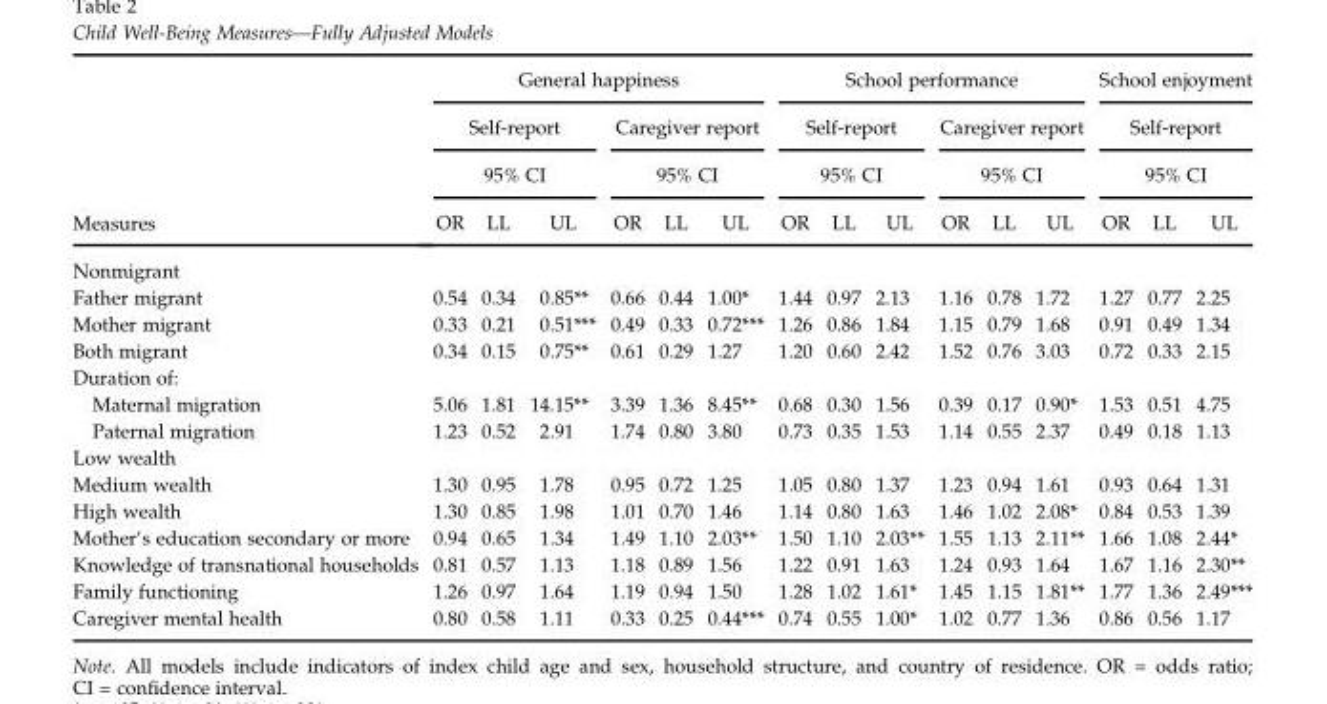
<table><thead><tr><td rowspan="4">Measures</td><td colspan="6">General happiness</td><td colspan="6">School performance</td><td rowspan="3" colspan="3">School enjoyment Self-report 95% CI</td></tr><tr><td rowspan="2" colspan="3">Self-report 95% CI</td><td rowspan="2" colspan="3">Caregiver report 95% CI</td><td rowspan="2" colspan="3">Self-report 95% CI</td><td rowspan="2" colspan="3">Caregiver report 95% CI</td></tr><tr></tr><tr><td>OR</td><td>LL</td><td>UL</td><td>OR</td><td>LL</td><td>UL</td><td>OR</td><td>LL</td><td>UL</td><td>OR</td><td>LL</td><td>UL</td><td>OR</td><td>LL</td><td>UL</td></tr></thead><tbody><tr><td colspan="16">Nonmigrant</td></tr><tr><td>Father migrant</td><td>0.54</td><td>0.34</td><td>0.85**</td><td>0.66</td><td>0.44</td><td>1.00*</td><td>1.44</td><td>0.97</td><td>2.13</td><td>1.16</td><td>0.78</td><td>1.72</td><td>1.27</td><td>0.77</td><td>2.25</td></tr><tr><td>Mother migrant</td><td>0.33</td><td>0.21</td><td>0.51***</td><td>0.49</td><td>0.33</td><td>0.72***</td><td>1.26</td><td>0.86</td><td>1.84</td><td>1.15</td><td>0.79</td><td>1.68</td><td>0.91</td><td>0.49</td><td>1.34</td></tr><tr><td>Both migrant</td><td>0.34</td><td>0.15</td><td>0.75**</td><td>0.61</td><td>0.29</td><td>1.27</td><td>1.20</td><td>0.60</td><td>2.42</td><td>1.52</td><td>0.76</td><td>3.03</td><td>0.72</td><td>0.33</td><td>2.15</td></tr><tr><td colspan="16">Duration of:</td></tr><tr><td>Maternal migration</td><td>5.06</td><td>1.81</td><td>14.15**</td><td>3.39</td><td>1.36</td><td>8.45**</td><td>0.68</td><td>0.30</td><td>1.56</td><td>0.39</td><td>0.17</td><td>0.90*</td><td>1.53</td><td>0.51</td><td>4.75</td></tr><tr><td>Paternal migration</td><td>1.23</td><td>0.52</td><td>2.91</td><td>1.74</td><td>0.80</td><td>3.80</td><td>0.73</td><td>0.35</td><td>1.53</td><td>1.14</td><td>0.55</td><td>2.37</td><td>0.49</td><td>0.18</td><td>1.13</td></tr><tr><td colspan="16">Low wealth</td></tr><tr><td>Medium wealth</td><td>1.30</td><td>0.95</td><td>1.78</td><td>0.95</td><td>0.72</td><td>1.25</td><td>1.05</td><td>0.80</td><td>1.37</td><td>1.23</td><td>0.94</td><td>1.61</td><td>0.93</td><td>0.64</td><td>1.31</td></tr><tr><td>High wealth</td><td>1.30</td><td>0.85</td><td>1.98</td><td>1.01</td><td>0.70</td><td>1.46</td><td>1.14</td><td>0.80</td><td>1.63</td><td>1.46</td><td>1.02</td><td>2.08*</td><td>0.84</td><td>0.53</td><td>1.39</td></tr><tr><td>Mother’s education secondary or more</td><td>0.94</td><td>0.65</td><td>1.34</td><td>1.49</td><td>1.10</td><td>2.03**</td><td>1.50</td><td>1.10</td><td>2.03**</td><td>1.55</td><td>1.13</td><td>2.11**</td><td>1.66</td><td>1.08</td><td>2.44*</td></tr><tr><td>Knowledge of transnational households</td><td>0.81</td><td>0.57</td><td>1.13</td><td>1.18</td><td>0.89</td><td>1.56</td><td>1.22</td><td>0.91</td><td>1.63</td><td>1.24</td><td>0.93</td><td>1.64</td><td>1.67</td><td>1.16</td><td>2.30**</td></tr><tr><td>Family functioning</td><td>1.26</td><td>0.97</td><td>1.64</td><td>1.19</td><td>0.94</td><td>1.50</td><td>1.28</td><td>1.02</td><td>1.61*</td><td>1.45</td><td>1.15</td><td>1.81**</td><td>1.77</td><td>1.36</td><td>2.49***</td></tr><tr><td>Caregiver mental health</td><td>0.80</td><td>0.58</td><td>1.11</td><td>0.33</td><td>0.25</td><td>0.44***</td><td>0.74</td><td>0.55</td><td>1.00*</td><td>1.02</td><td>0.77</td><td>1.36</td><td>0.86</td><td>0.56</td><td>1.17</td></tr></tbody></table>